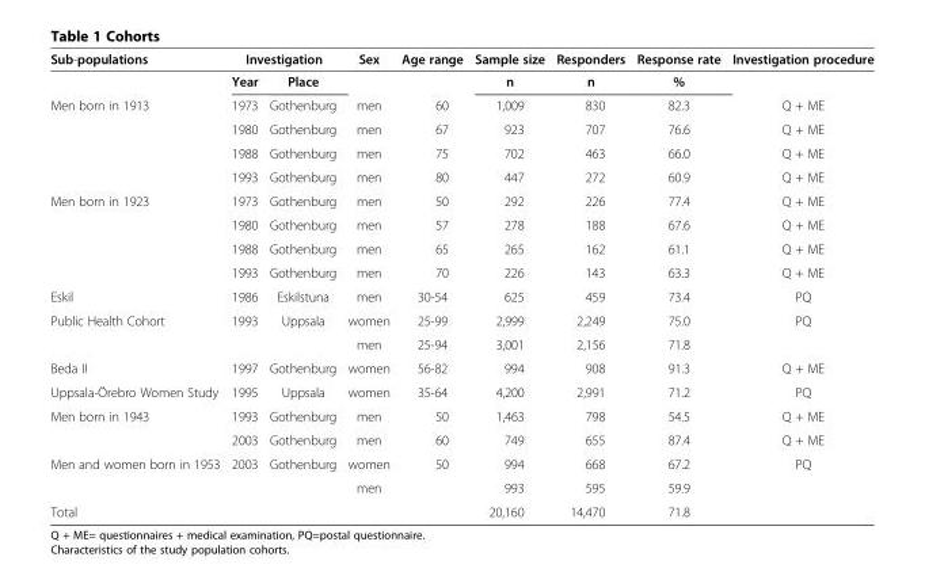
<table><thead><tr><td rowspan="2">Sub-populations</td><td colspan="2">Investigation</td><td rowspan="2">Sex</td><td rowspan="2">Age range</td><td rowspan="2">Sample size n</td><td rowspan="2">Responders n</td><td rowspan="2">Response rate %</td><td rowspan="2">Investigation procedure</td></tr><tr><td>Year</td><td>Place</td></tr></thead><tbody><tr><td rowspan="4">Men born in 1913</td><td>1973</td><td>Gothenburg</td><td>men</td><td>60</td><td>1,009</td><td>830</td><td>82.3</td><td>Q + ME</td></tr><tr><td>1980</td><td>Gothenburg</td><td>men</td><td>67</td><td>923</td><td>707</td><td>76.6</td><td>Q + ME</td></tr><tr><td>1988</td><td>Gothenburg</td><td>men</td><td>75</td><td>702</td><td>463</td><td>66.0</td><td>Q + ME</td></tr><tr><td>1993</td><td>Gothenburg</td><td>men</td><td>80</td><td>447</td><td>272</td><td>60.9</td><td>Q + ME</td></tr><tr><td rowspan="4">Men born in 1923</td><td>1973</td><td>Gothenburg</td><td>men</td><td>50</td><td>292</td><td>226</td><td>77.4</td><td>Q + ME</td></tr><tr><td>1980</td><td>Gothenburg</td><td>men</td><td>57</td><td>278</td><td>188</td><td>67.6</td><td>Q + ME</td></tr><tr><td>1988</td><td>Gothenburg</td><td>men</td><td>65</td><td>265</td><td>162</td><td>61.1</td><td>Q + ME</td></tr><tr><td>1993</td><td>Gothenburg</td><td>men</td><td>70</td><td>226</td><td>143</td><td>63.3</td><td>Q + ME</td></tr><tr><td>Eskil</td><td>1986</td><td>Eskilstuna</td><td>men</td><td>30-54</td><td>625</td><td>459</td><td>73.4</td><td>PQ</td></tr><tr><td rowspan="2">Public Health Cohort</td><td rowspan="2">1993</td><td rowspan="2">Uppsala</td><td>women</td><td>25-99</td><td>2,999</td><td>2,249</td><td>75.0</td><td rowspan="2">PQ</td></tr><tr><td>men</td><td>25-94</td><td>3,001</td><td>2,156</td><td>71.8</td></tr><tr><td>Beda II</td><td>1997</td><td>Gothenburg</td><td>women</td><td>56-82</td><td>994</td><td>908</td><td>91.3</td><td>Q + ME</td></tr><tr><td>Uppsala-Örebro Women Study</td><td>1995</td><td>Uppsala</td><td>women</td><td>35-64</td><td>4,200</td><td>2,991</td><td>71.2</td><td>PQ</td></tr><tr><td rowspan="2">Men born in 1943</td><td>1993</td><td>Gothenburg</td><td>men</td><td>50</td><td>1,463</td><td>798</td><td>54.5</td><td>Q + ME</td></tr><tr><td>2003</td><td>Gothenburg</td><td>men</td><td>60</td><td>749</td><td>655</td><td>87.4</td><td>Q + ME</td></tr><tr><td rowspan="2">Men and women born in 1953</td><td rowspan="2">2003</td><td rowspan="2">Gothenburg</td><td>women</td><td rowspan="2">50</td><td>994</td><td>668</td><td>67.2</td><td rowspan="2">PQ</td></tr><tr><td>men</td><td>993</td><td>595</td><td>59.9</td></tr><tr><td>Total</td><td></td><td></td><td></td><td></td><td>20,160</td><td>14,470</td><td>71.8</td><td></td></tr></tbody></table>